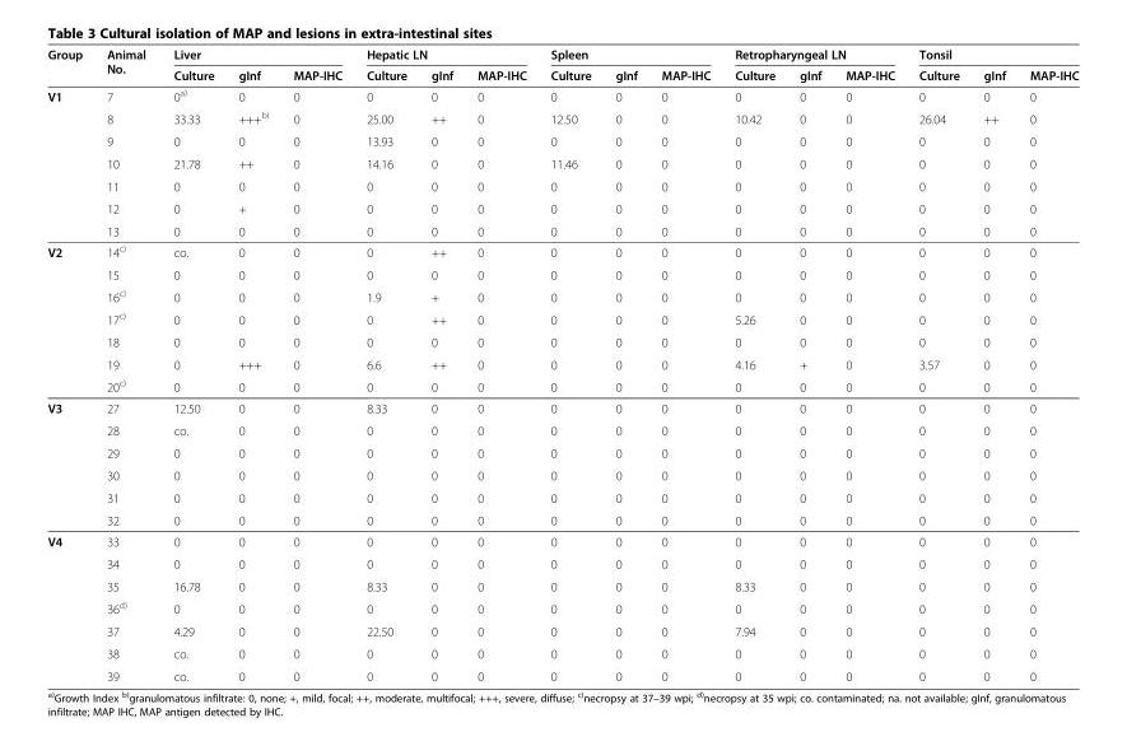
<table><thead><tr><td rowspan="2">Group</td><td rowspan="2">Animal No.</td><td colspan="3">Liver</td><td colspan="3">Hepatic LN</td><td colspan="3">Spleen</td><td colspan="3">Retropharyngeal LN</td><td colspan="3">Tonsil</td></tr><tr><td>Culture</td><td>gInf</td><td>MAP-IHC</td><td>Culture</td><td>gInf</td><td>MAP-IHC</td><td>Culture</td><td>gInf</td><td>MAP-IHC</td><td>Culture</td><td>gInf</td><td>MAP-IHC</td><td>Culture</td><td>gInf</td><td>MAP-IHC</td></tr></thead><tbody><tr><td rowspan="7">V1</td><td>7</td><td>0<sup>a)</sup></td><td>0</td><td>0</td><td>0</td><td>0</td><td>0</td><td>0</td><td>0</td><td>0</td><td>0</td><td>0</td><td>0</td><td>0</td><td>0</td><td>0</td></tr><tr><td>8</td><td>33.33</td><td>+++<sup>b)</sup></td><td>0</td><td>25.00</td><td>++</td><td>0</td><td>12.50</td><td>0</td><td>0</td><td>10.42</td><td>0</td><td>0</td><td>26.04</td><td>++</td><td>0</td></tr><tr><td>9</td><td>0</td><td>0</td><td>0</td><td>13.93</td><td>0</td><td>0</td><td>0</td><td>0</td><td>0</td><td>0</td><td>0</td><td>0</td><td>0</td><td>0</td><td>0</td></tr><tr><td>10</td><td>21.78</td><td>++</td><td>0</td><td>14.16</td><td>0</td><td>0</td><td>11.46</td><td>0</td><td>0</td><td>0</td><td>0</td><td>0</td><td>0</td><td>0</td><td>0</td></tr><tr><td>11</td><td>0</td><td>0</td><td>0</td><td>0</td><td>0</td><td>0</td><td>0</td><td>0</td><td>0</td><td>0</td><td>0</td><td>0</td><td>0</td><td>0</td><td>0</td></tr><tr><td>12</td><td>0</td><td>+</td><td>0</td><td>0</td><td>0</td><td>0</td><td>0</td><td>0</td><td>0</td><td>0</td><td>0</td><td>0</td><td>0</td><td>0</td><td>0</td></tr><tr><td>13</td><td>0</td><td>0</td><td>0</td><td>0</td><td>0</td><td>0</td><td>0</td><td>0</td><td>0</td><td>0</td><td>0</td><td>0</td><td>0</td><td>0</td><td>0</td></tr><tr><td rowspan="7">V2</td><td>14<sup>c)</sup></td><td>co.</td><td>0</td><td>0</td><td>0</td><td>++</td><td>0</td><td>0</td><td>0</td><td>0</td><td>0</td><td>0</td><td>0</td><td>0</td><td>0</td><td>0</td></tr><tr><td>15</td><td>0</td><td>0</td><td>0</td><td>0</td><td>0</td><td>0</td><td>0</td><td>0</td><td>0</td><td>0</td><td>0</td><td>0</td><td>0</td><td>0</td><td>0</td></tr><tr><td>16<sup>c)</sup></td><td>0</td><td>0</td><td>0</td><td>1.9</td><td>+</td><td>0</td><td>0</td><td>0</td><td>0</td><td>0</td><td>0</td><td>0</td><td>0</td><td>0</td><td>0</td></tr><tr><td>17<sup>c)</sup></td><td>0</td><td>0</td><td>0</td><td>0</td><td>++</td><td>0</td><td>0</td><td>0</td><td>0</td><td>5.26</td><td>0</td><td>0</td><td>0</td><td>0</td><td>0</td></tr><tr><td>18</td><td>0</td><td>0</td><td>0</td><td>0</td><td>0</td><td>0</td><td>0</td><td>0</td><td>0</td><td>0</td><td>0</td><td>0</td><td>0</td><td>0</td><td>0</td></tr><tr><td>19</td><td>0</td><td>+++</td><td>0</td><td>6.6</td><td>++</td><td>0</td><td>0</td><td>0</td><td>0</td><td>4.16</td><td>+</td><td>0</td><td>3.57</td><td>0</td><td>0</td></tr><tr><td>20<sup>c)</sup></td><td>0</td><td>0</td><td>0</td><td>0</td><td>0</td><td>0</td><td>0</td><td>0</td><td>0</td><td>0</td><td>0</td><td>0</td><td>0</td><td>0</td><td>0</td></tr><tr><td rowspan="6">V3</td><td>27</td><td>12.50</td><td>0</td><td>0</td><td>8.33</td><td>0</td><td>0</td><td>0</td><td>0</td><td>0</td><td>0</td><td>0</td><td>0</td><td>0</td><td>0</td><td>0</td></tr><tr><td>28</td><td>co.</td><td>0</td><td>0</td><td>0</td><td>0</td><td>0</td><td>0</td><td>0</td><td>0</td><td>0</td><td>0</td><td>0</td><td>0</td><td>0</td><td>0</td></tr><tr><td>29</td><td>0</td><td>0</td><td>0</td><td>0</td><td>0</td><td>0</td><td>0</td><td>0</td><td>0</td><td>0</td><td>0</td><td>0</td><td>0</td><td>0</td><td>0</td></tr><tr><td>30</td><td>0</td><td>0</td><td>0</td><td>0</td><td>0</td><td>0</td><td>0</td><td>0</td><td>0</td><td>0</td><td>0</td><td>0</td><td>0</td><td>0</td><td>0</td></tr><tr><td>31</td><td>0</td><td>0</td><td>0</td><td>0</td><td>0</td><td>0</td><td>0</td><td>0</td><td>0</td><td>0</td><td>0</td><td>0</td><td>0</td><td>0</td><td>0</td></tr><tr><td>32</td><td>0</td><td>0</td><td>0</td><td>0</td><td>0</td><td>0</td><td>0</td><td>0</td><td>0</td><td>0</td><td>0</td><td>0</td><td>0</td><td>0</td><td>0</td></tr><tr><td rowspan="7">V4</td><td>33</td><td>0</td><td>0</td><td>0</td><td>0</td><td>0</td><td>0</td><td>0</td><td>0</td><td>0</td><td>0</td><td>0</td><td>0</td><td>0</td><td>0</td><td>0</td></tr><tr><td>34</td><td>0</td><td>0</td><td>0</td><td>0</td><td>0</td><td>0</td><td>0</td><td>0</td><td>0</td><td>0</td><td>0</td><td>0</td><td>0</td><td>0</td><td>0</td></tr><tr><td>35</td><td>16.78</td><td>0</td><td>0</td><td>8.33</td><td>0</td><td>0</td><td>0</td><td>0</td><td>0</td><td>8.33</td><td>0</td><td>0</td><td>0</td><td>0</td><td>0</td></tr><tr><td>36<sup>d)</sup></td><td>0</td><td>0</td><td>0</td><td>0</td><td>0</td><td>0</td><td>0</td><td>0</td><td>0</td><td>0</td><td>0</td><td>0</td><td>0</td><td>0</td><td>0</td></tr><tr><td>37</td><td>4.29</td><td>0</td><td>0</td><td>22.50</td><td>0</td><td>0</td><td>0</td><td>0</td><td>0</td><td>7.94</td><td>0</td><td>0</td><td>0</td><td>0</td><td>0</td></tr><tr><td>38</td><td>co.</td><td>0</td><td>0</td><td>0</td><td>0</td><td>0</td><td>0</td><td>0</td><td>0</td><td>0</td><td>0</td><td>0</td><td>0</td><td>0</td><td>0</td></tr><tr><td>39</td><td>co.</td><td>0</td><td>0</td><td>0</td><td>0</td><td>0</td><td>0</td><td>0</td><td>0</td><td>0</td><td>0</td><td>0</td><td>0</td><td>0</td><td>0</td></tr></tbody></table>